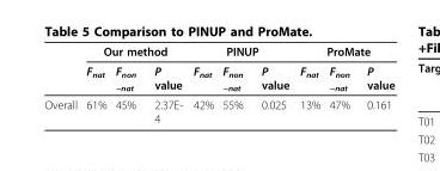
<table><thead><tr><td rowspan="2"></td><td colspan="3">Our method</td><td colspan="3">PINUP</td><td colspan="3">ProMate</td></tr><tr><td>F<sub>nat</sub></td><td>F<sub>non −nat</sub></td><td>P value</td><td>F<sub>nat</sub></td><td>F<sub>non −nat</sub></td><td>P value</td><td>F<sub>nat</sub></td><td>F<sub>non −nat</sub></td><td>P value</td></tr></thead><tbody><tr><td>Overall</td><td>61%</td><td>45%</td><td>2.37E- 4</td><td>42%</td><td>55%</td><td>0.025</td><td>13%</td><td>47%</td><td>0.161</td></tr></tbody></table>